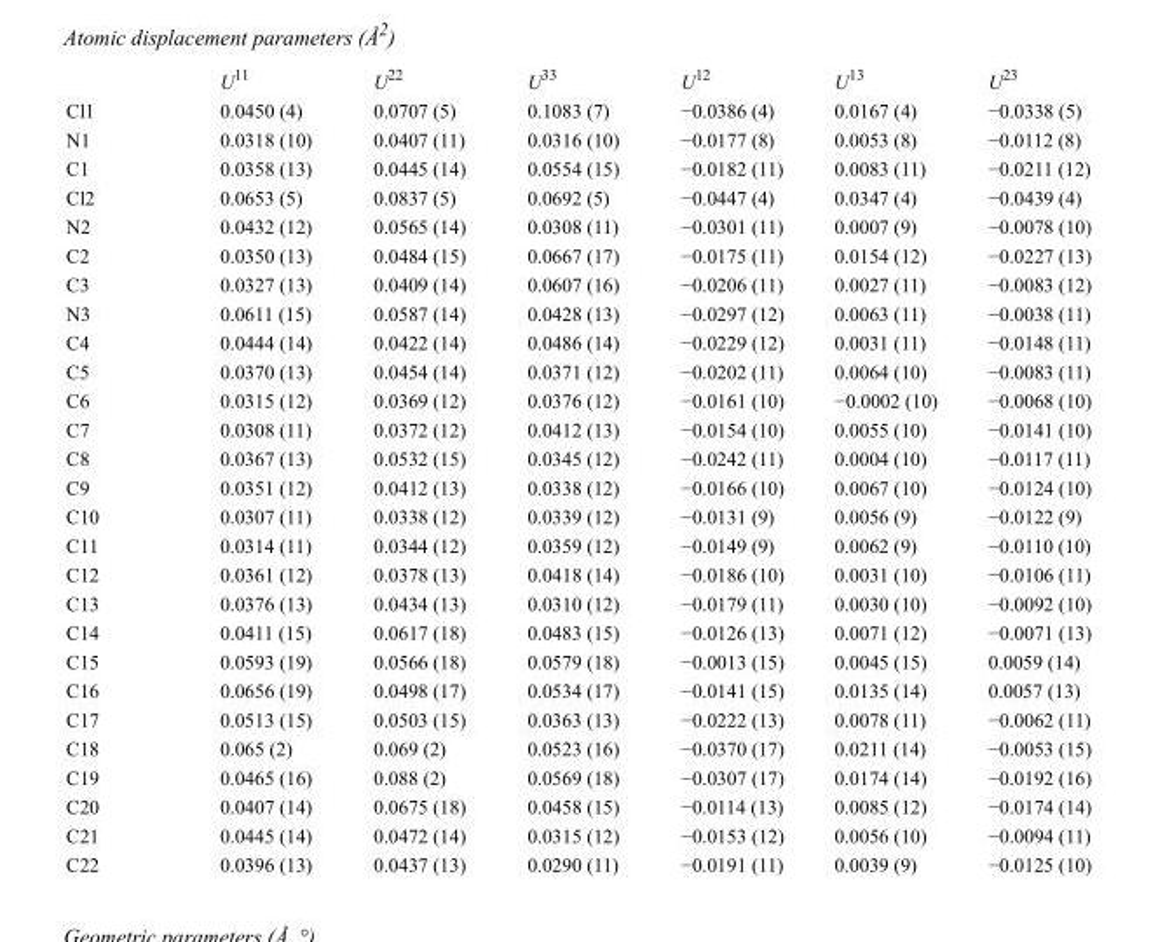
<table><thead><tr><td></td><td>U<sup>11</sup></td><td>U<sup>22</sup></td><td>U<sup>33</sup></td><td>U<sup>12</sup></td><td>U<sup>13</sup></td><td>U<sup>23</sup></td></tr></thead><tbody><tr><td>Cl1</td><td>0.0450 (4)</td><td>0.0707 (5)</td><td>0.1083 (7)</td><td>−0.0386 (4)</td><td>0.0167 (4)</td><td>−0.0338 (5)</td></tr><tr><td>N1</td><td>0.0318 (10)</td><td>0.0407 (11)</td><td>0.0316 (10)</td><td>−0.0177 (8)</td><td>0.0053 (8)</td><td>−0.0112 (8)</td></tr><tr><td>C1</td><td>0.0358 (13)</td><td>0.0445 (14)</td><td>0.0554 (15)</td><td>−0.0182 (11)</td><td>0.0083 (11)</td><td>−0.0211 (12)</td></tr><tr><td>Cl2</td><td>0.0653 (5)</td><td>0.0837 (5)</td><td>0.0692 (5)</td><td>−0.0447 (4)</td><td>0.0347 (4)</td><td>−0.0439 (4)</td></tr><tr><td>N2</td><td>0.0432 (12)</td><td>0.0565 (14)</td><td>0.0308 (11)</td><td>−0.0301 (11)</td><td>0.0007 (9)</td><td>−0.0078 (10)</td></tr><tr><td>C2</td><td>0.0350 (13)</td><td>0.0484 (15)</td><td>0.0667 (17)</td><td>−0.0175 (11)</td><td>0.0154 (12)</td><td>−0.0227 (13)</td></tr><tr><td>C3</td><td>0.0327 (13)</td><td>0.0409 (14)</td><td>0.0607 (16)</td><td>−0.0206 (11)</td><td>0.0027 (11)</td><td>−0.0083 (12)</td></tr><tr><td>N3</td><td>0.0611 (15)</td><td>0.0587 (14)</td><td>0.0428 (13)</td><td>−0.0297 (12)</td><td>0.0063 (11)</td><td>−0.0038 (11)</td></tr><tr><td>C4</td><td>0.0444 (14)</td><td>0.0422 (14)</td><td>0.0486 (14)</td><td>−0.0229 (12)</td><td>0.0031 (11)</td><td>−0.0148 (11)</td></tr><tr><td>C5</td><td>0.0370 (13)</td><td>0.0454 (14)</td><td>0.0371 (12)</td><td>−0.0202 (11)</td><td>0.0064 (10)</td><td>−0.0083 (11)</td></tr><tr><td>C6</td><td>0.0315 (12)</td><td>0.0369 (12)</td><td>0.0376 (12)</td><td>−0.0161 (10)</td><td>−0.0002 (10)</td><td>−0.0068 (10)</td></tr><tr><td>C7</td><td>0.0308 (11)</td><td>0.0372 (12)</td><td>0.0412 (13)</td><td>−0.0154 (10)</td><td>0.0055 (10)</td><td>−0.0141 (10)</td></tr><tr><td>C8</td><td>0.0367 (13)</td><td>0.0532 (15)</td><td>0.0345 (12)</td><td>−0.0242 (11)</td><td>0.0004 (10)</td><td>−0.0117 (11)</td></tr><tr><td>C9</td><td>0.0351 (12)</td><td>0.0412 (13)</td><td>0.0338 (12)</td><td>−0.0166 (10)</td><td>0.0067 (10)</td><td>−0.0124 (10)</td></tr><tr><td>C10</td><td>0.0307 (11)</td><td>0.0338 (12)</td><td>0.0339 (12)</td><td>−0.0131 (9)</td><td>0.0056 (9)</td><td>−0.0122 (9)</td></tr><tr><td>C11</td><td>0.0314 (11)</td><td>0.0344 (12)</td><td>0.0359 (12)</td><td>−0.0149 (9)</td><td>0.0062 (9)</td><td>−0.0110 (10)</td></tr><tr><td>C12</td><td>0.0361 (12)</td><td>0.0378 (13)</td><td>0.0418 (14)</td><td>−0.0186 (10)</td><td>0.0031 (10)</td><td>−0.0106 (11)</td></tr><tr><td>C13</td><td>0.0376 (13)</td><td>0.0434 (13)</td><td>0.0310 (12)</td><td>−0.0179 (11)</td><td>0.0030 (10)</td><td>−0.0092 (10)</td></tr><tr><td>C14</td><td>0.0411 (15)</td><td>0.0617 (18)</td><td>0.0483 (15)</td><td>−0.0126 (13)</td><td>0.0071 (12)</td><td>−0.0071 (13)</td></tr><tr><td>C15</td><td>0.0593 (19)</td><td>0.0566 (18)</td><td>0.0579 (18)</td><td>−0.0013 (15)</td><td>0.0045 (15)</td><td>0.0059 (14)</td></tr><tr><td>C16</td><td>0.0656 (19)</td><td>0.0498 (17)</td><td>0.0534 (17)</td><td>−0.0141 (15)</td><td>0.0135 (14)</td><td>0.0057 (13)</td></tr><tr><td>C17</td><td>0.0513 (15)</td><td>0.0503 (15)</td><td>0.0363 (13)</td><td>−0.0222 (13)</td><td>0.0078 (11)</td><td>−0.0062 (11)</td></tr><tr><td>C18</td><td>0.065 (2)</td><td>0.069 (2)</td><td>0.0523 (16)</td><td>−0.0370 (17)</td><td>0.0211 (14)</td><td>−0.0053 (15)</td></tr><tr><td>C19</td><td>0.0465 (16)</td><td>0.088 (2)</td><td>0.0569 (18)</td><td>−0.0307 (17)</td><td>0.0174 (14)</td><td>−0.0192 (16)</td></tr><tr><td>C20</td><td>0.0407 (14)</td><td>0.0675 (18)</td><td>0.0458 (15)</td><td>−0.0114 (13)</td><td>0.0085 (12)</td><td>−0.0174 (14)</td></tr><tr><td>C21</td><td>0.0445 (14)</td><td>0.0472 (14)</td><td>0.0315 (12)</td><td>−0.0153 (12)</td><td>0.0056 (10)</td><td>−0.0094 (11)</td></tr><tr><td>C22</td><td>0.0396 (13)</td><td>0.0437 (13)</td><td>0.0290 (11)</td><td>−0.0191 (11)</td><td>0.0039 (9)</td><td>−0.0125 (10)</td></tr></tbody></table>